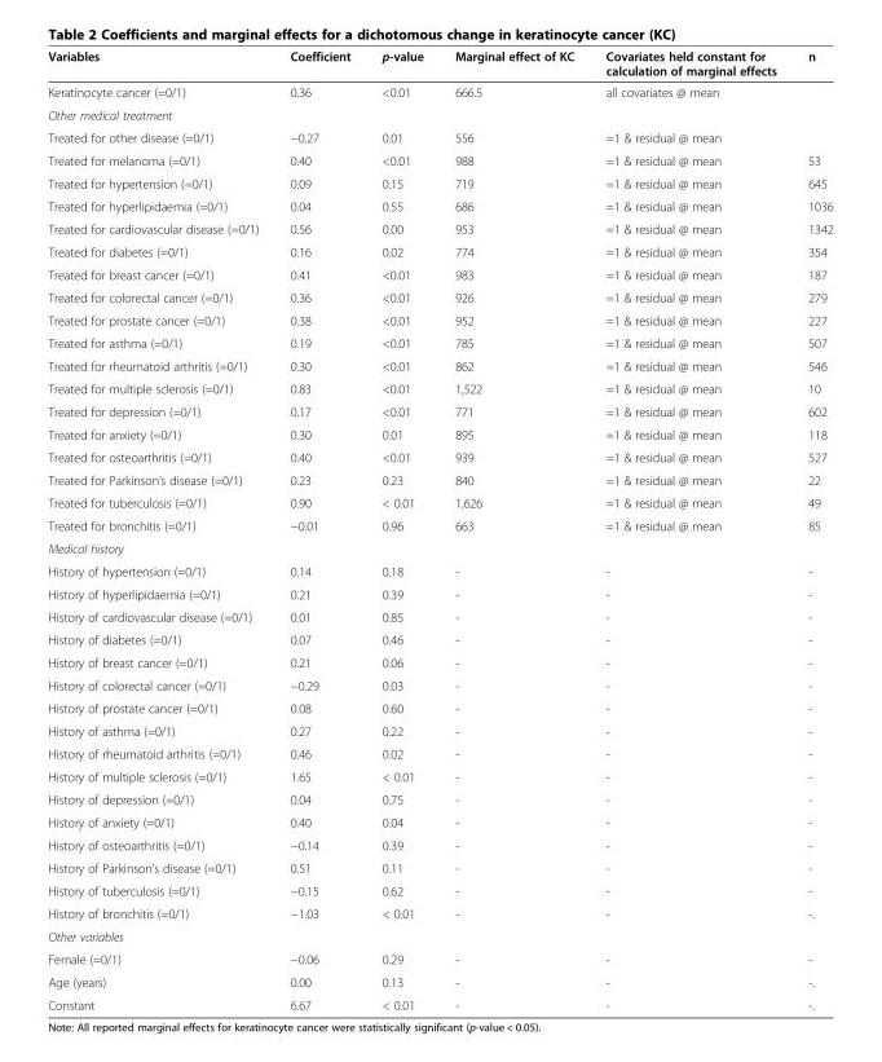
<table><thead><tr><td>Variables</td><td>Coefficient</td><td>p-value</td><td>Marginal effect of KC</td><td>Covariates held constant for calculation of marginal effects</td><td>n</td></tr></thead><tbody><tr><td>Keratinocyte cancer (=0/1)</td><td>0.36</td><td>&lt;0.01</td><td>666.5</td><td>all covariates @ mean</td><td></td></tr><tr><td colspan="6">Other medical treatment</td></tr><tr><td>Treated for other disease (=0/1)</td><td>−0.27</td><td>0.01</td><td>556</td><td>=1 &amp; residual @ mean</td><td></td></tr><tr><td>Treated for melanoma (=0/1)</td><td>0.40</td><td>&lt;0.01</td><td>988</td><td>=1 &amp; residual @ mean</td><td>53</td></tr><tr><td>Treated for hypertension (=0/1)</td><td>0.09</td><td>0.15</td><td>719</td><td>=1 &amp; residual @ mean</td><td>645</td></tr><tr><td>Treated for hyperlipidaemia (=0/1)</td><td>0.04</td><td>0.55</td><td>686</td><td>=1 &amp; residual @ mean</td><td>1036</td></tr><tr><td>Treated for cardiovascular disease (=0/1)</td><td>0.56</td><td>0.00</td><td>953</td><td>=1 &amp; residual @ mean</td><td>1342</td></tr><tr><td>Treated for diabetes (=0/1)</td><td>0.16</td><td>0.02</td><td>774</td><td>=1 &amp; residual @ mean</td><td>354</td></tr><tr><td>Treated for breast cancer (=0/1)</td><td>0.41</td><td>&lt;0.01</td><td>983</td><td>=1 &amp; residual @ mean</td><td>187</td></tr><tr><td>Treated for colorectal cancer (=0/1)</td><td>0.36</td><td>&lt;0.01</td><td>926</td><td>=1 &amp; residual @ mean</td><td>279</td></tr><tr><td>Treated for prostate cancer (=0/1)</td><td>0.38</td><td>&lt;0.01</td><td>952</td><td>=1 &amp; residual @ mean</td><td>227</td></tr><tr><td>Treated for asthma (=0/1)</td><td>0.19</td><td>&lt;0.01</td><td>785</td><td>=1 &amp; residual @ mean</td><td>507</td></tr><tr><td>Treated for rheumatoid arthritis (=0/1)</td><td>0.30</td><td>&lt;0.01</td><td>862</td><td>=1 &amp; residual @ mean</td><td>546</td></tr><tr><td>Treated for multiple sclerosis (=0/1)</td><td>0.83</td><td>&lt;0.01</td><td>1,522</td><td>=1 &amp; residual @ mean</td><td>10</td></tr><tr><td>Treated for depression (=0/1)</td><td>0.17</td><td>&lt;0.01</td><td>771</td><td>=1 &amp; residual @ mean</td><td>602</td></tr><tr><td>Treated for anxiety (=0/1)</td><td>0.30</td><td>0.01</td><td>895</td><td>=1 &amp; residual @ mean</td><td>118</td></tr><tr><td>Treated for osteoarthritis (=0/1)</td><td>0.40</td><td>&lt;0.01</td><td>939</td><td>=1 &amp; residual @ mean</td><td>527</td></tr><tr><td>Treated for Parkinson’s disease (=0/1)</td><td>0.23</td><td>0.23</td><td>840</td><td>=1 &amp; residual @ mean</td><td>22</td></tr><tr><td>Treated for tuberculosis (=0/1)</td><td>0.90</td><td>&lt; 0.01</td><td>1,626</td><td>=1 &amp; residual @ mean</td><td>49</td></tr><tr><td>Treated for bronchitis (=0/1)</td><td>−0.01</td><td>0.96</td><td>663</td><td>=1 &amp; residual @ mean</td><td>85</td></tr><tr><td colspan="6">Medical history</td></tr><tr><td>History of hypertension (=0/1)</td><td>0.14</td><td>0.18</td><td>-</td><td>-</td><td>-</td></tr><tr><td>History of hyperlipidaemia (=0/1)</td><td>0.21</td><td>0.39</td><td>-</td><td>-</td><td>-</td></tr><tr><td>History of cardiovascular disease (=0/1)</td><td>0.01</td><td>0.85</td><td>-</td><td>-</td><td>-</td></tr><tr><td>History of diabetes (=0/1)</td><td>0.07</td><td>0.46</td><td>-</td><td>-</td><td>-</td></tr><tr><td>History of breast cancer (=0/1)</td><td>0.21</td><td>0.06</td><td>-</td><td>-</td><td>-</td></tr><tr><td>History of colorectal cancer (=0/1)</td><td>−0.29</td><td>0.03</td><td>-</td><td>-</td><td>-</td></tr><tr><td>History of prostate cancer (=0/1)</td><td>0.08</td><td>0.60</td><td>-</td><td>-</td><td>-</td></tr><tr><td>History of asthma (=0/1)</td><td>0.27</td><td>0.22</td><td>-</td><td>-</td><td>-</td></tr><tr><td>History of rheumatoid arthritis (=0/1)</td><td>0.46</td><td>0.02</td><td>-</td><td>-</td><td>-</td></tr><tr><td>History of multiple sclerosis (=0/1)</td><td>1.65</td><td>&lt; 0.01</td><td>-</td><td>-</td><td>-</td></tr><tr><td>History of depression (=0/1)</td><td>0.04</td><td>0.75</td><td>-</td><td>-</td><td>-</td></tr><tr><td>History of anxiety (=0/1)</td><td>0.40</td><td>0.04</td><td>-</td><td>-</td><td>-</td></tr><tr><td>History of osteoarthritis (=0/1)</td><td>−0.14</td><td>0.39</td><td>-</td><td>-</td><td>-</td></tr><tr><td>History of Parkinson’s disease (=0/1)</td><td>0.51</td><td>0.11</td><td>-</td><td>-</td><td>-</td></tr><tr><td>History of tuberculosis (=0/1)</td><td>−0.15</td><td>0.62</td><td>-</td><td>-</td><td>-</td></tr><tr><td>History of bronchitis (=0/1)</td><td>−1.03</td><td>&lt; 0.01</td><td>-</td><td>-</td><td>-.</td></tr><tr><td colspan="6">Other variables</td></tr><tr><td>Female (=0/1)</td><td>−0.06</td><td>0.29</td><td>-</td><td>-</td><td>-</td></tr><tr><td>Age (years)</td><td>0.00</td><td>0.13</td><td>-</td><td>-</td><td>-.</td></tr><tr><td>Constant</td><td>6.67</td><td>&lt; 0.01</td><td>-</td><td>-</td><td>-.</td></tr></tbody></table>